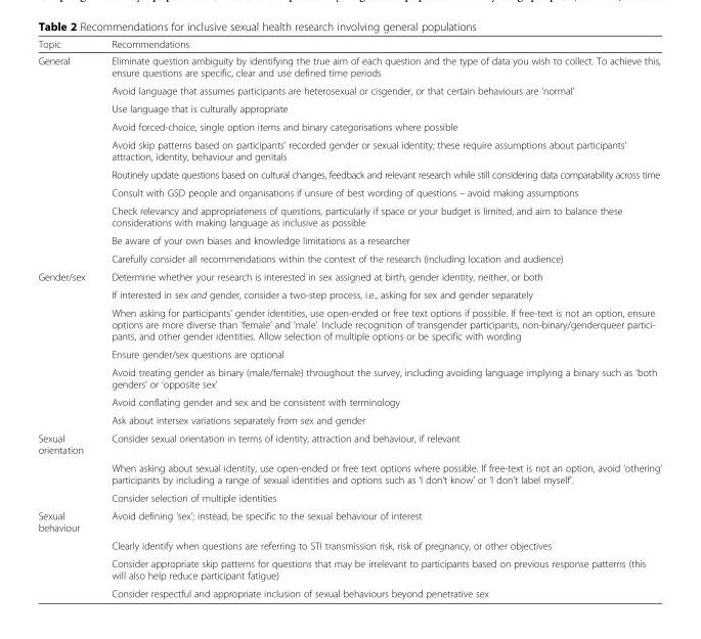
<table><thead><tr><td>Topic</td><td>Recommendations</td></tr></thead><tbody><tr><td rowspan="10">General</td><td>Eliminate question ambiguity by identifying the true aim of each question and the type of data you wish to collect. To achieve this, ensure questions are specific, clear and use defined time periods</td></tr><tr><td>Avoid language that assumes participants are heterosexual or cisgender, or that certain behaviours are ‘normal’</td></tr><tr><td>Use language that is culturally appropriate</td></tr><tr><td>Avoid forced-choice, single option items and binary categorisations where possible</td></tr><tr><td>Avoid skip patterns based on participants’ recorded gender or sexual identity; these require assumptions about participants’ attraction, identity, behaviour and genitals</td></tr><tr><td>Routinely update questions based on cultural changes, feedback and relevant research while still considering data comparability across time</td></tr><tr><td>Consult with GSD people and organisations if unsure of best wording of questions – avoid making assumptions</td></tr><tr><td>Check relevancy and appropriateness of questions, particularly if space or your budget is limited, and aim to balance these considerations with making language as inclusive as possible</td></tr><tr><td>Be aware of your own biases and knowledge limitations as a researcher</td></tr><tr><td>Carefully consider all recommendations within the context of the research (including location and audience)</td></tr><tr><td rowspan="7">Gender/sex</td><td>Determine whether your research is interested in sex assigned at birth, gender identity, neither, or both</td></tr><tr><td>If interested in sex and gender, consider a two-step process, i.e., asking for sex and gender separately</td></tr><tr><td>When asking for participants’ gender identities, use open-ended or free text options if possible. If free-text is not an option, ensure options are more diverse than ‘female’ and ‘male’. Include recognition of transgender participants, non-binary/genderqueer partici- pants, and other gender identities. Allow selection of multiple options or be specific with wording</td></tr><tr><td>Ensure gender/sex questions are optional</td></tr><tr><td>Avoid treating gender as binary (male/female) throughout the survey, including avoiding language implying a binary such as ‘both genders’ or ‘opposite sex’</td></tr><tr><td>Avoid conflating gender and sex and be consistent with terminology</td></tr><tr><td>Ask about intersex variations separately from sex and gender</td></tr><tr><td rowspan="3">Sexual orientation</td><td>Consider sexual orientation in terms of identity, attraction and behaviour, if relevant</td></tr><tr><td>When asking about sexual identity, use open-ended or free text options where possible. If free-text is not an option, avoid ‘othering’ participants by including a range of sexual identities and options such as ‘I don’t know’ or ‘I don’t label myself’.</td></tr><tr><td>Consider selection of multiple identities</td></tr><tr><td rowspan="4">Sexual behaviour</td><td>Avoid defining ‘sex’; instead, be specific to the sexual behaviour of interest</td></tr><tr><td>Clearly identify when questions are referring to STI transmission risk, risk of pregnancy, or other objectives</td></tr><tr><td>Consider appropriate skip patterns for questions that may be irrelevant to participants based on previous response patterns (this will also help reduce participant fatigue)</td></tr><tr><td>Consider respectful and appropriate inclusion of sexual behaviours beyond penetrative sex</td></tr></tbody></table>